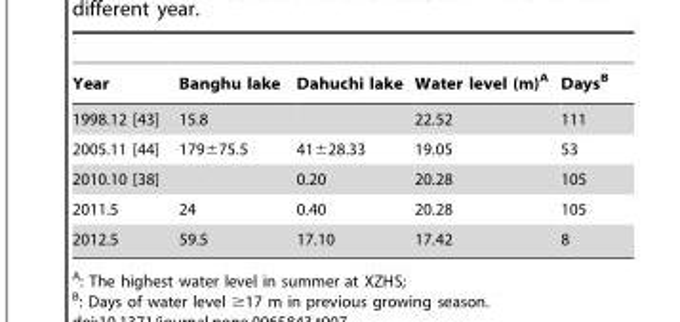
<table><thead><tr><td>Year</td><td>Banghu lake</td><td>Dahuchi lake</td><td>Water level (m)<sup>A</sup></td><td>Days<sup>B</sup></td></tr></thead><tbody><tr><td>1998.12 [43]</td><td>15.8</td><td></td><td>22.52</td><td>111</td></tr><tr><td>2005.11 [44]</td><td>179±75.5</td><td>41±28.33</td><td>19.05</td><td>53</td></tr><tr><td>2010.10 [38]</td><td></td><td>0.20</td><td>20.28</td><td>105</td></tr><tr><td>2011.5</td><td>24</td><td>0.40</td><td>20.28</td><td>105</td></tr><tr><td>2012.5</td><td>59.5</td><td>17.10</td><td>17.42</td><td>8</td></tr></tbody></table>